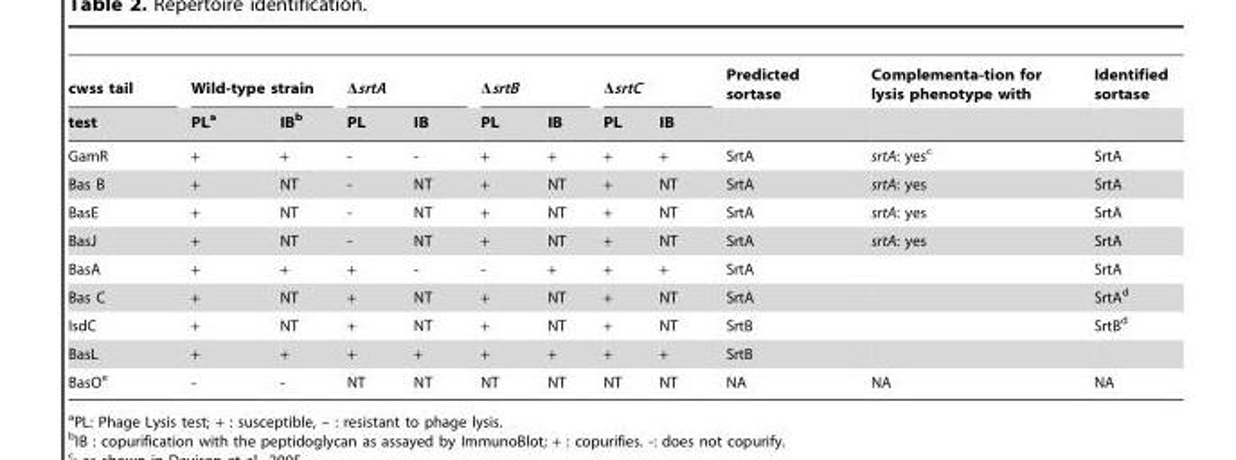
<table><thead><tr><td rowspan="2">cwss tail test</td><td colspan="2">Wild-type strain</td><td colspan="2">ΔsrtA</td><td colspan="2">ΔsrtB</td><td colspan="2">ΔsrtC</td><td rowspan="2">Predicted sortase</td><td rowspan="2">Complementa-tion for lysis phenotype with</td><td rowspan="2">Identified sortase</td></tr><tr><td>PL<sup>a</sup></td><td>IB<sup>b</sup></td><td>PL</td><td>IB</td><td>PL</td><td>IB</td><td>PL</td><td>IB</td></tr></thead><tbody><tr><td>GamR</td><td>+</td><td>+</td><td>-</td><td>-</td><td>+</td><td>+</td><td>+</td><td>+</td><td>SrtA</td><td>srtA: yes<sup>c</sup></td><td>SrtA</td></tr><tr><td>Bas B</td><td>+</td><td>NT</td><td>-</td><td>NT</td><td>+</td><td>NT</td><td>+</td><td>NT</td><td>SrtA</td><td>srtA: yes</td><td>SrtA</td></tr><tr><td>BasE</td><td>+</td><td>NT</td><td>-</td><td>NT</td><td>+</td><td>NT</td><td>+</td><td>NT</td><td>SrtA</td><td>srtA: yes</td><td>SrtA</td></tr><tr><td>BasJ</td><td>+</td><td>NT</td><td>-</td><td>NT</td><td>+</td><td>NT</td><td>+</td><td>NT</td><td>SrtA</td><td>srtA: yes</td><td>SrtA</td></tr><tr><td>BasA</td><td>+</td><td>+</td><td>+</td><td>-</td><td>-</td><td>+</td><td>+</td><td>+</td><td>SrtA</td><td></td><td>SrtA</td></tr><tr><td>Bas C</td><td>+</td><td>NT</td><td>+</td><td>NT</td><td>+</td><td>NT</td><td>+</td><td>NT</td><td>SrtA</td><td></td><td>SrtA<sup>d</sup></td></tr><tr><td>IsdC</td><td>+</td><td>NT</td><td>+</td><td>NT</td><td>+</td><td>NT</td><td>+</td><td>NT</td><td>SrtB</td><td></td><td>SrtB<sup>d</sup></td></tr><tr><td>BasL</td><td>+</td><td>+</td><td>+</td><td>+</td><td>+</td><td>+</td><td>+</td><td>+</td><td>SrtB</td><td></td><td></td></tr><tr><td>BasO<sup>e</sup></td><td>-</td><td>-</td><td>NT</td><td>NT</td><td>NT</td><td>NT</td><td>NT</td><td>NT</td><td>NA</td><td>NA</td><td>NA</td></tr></tbody></table>